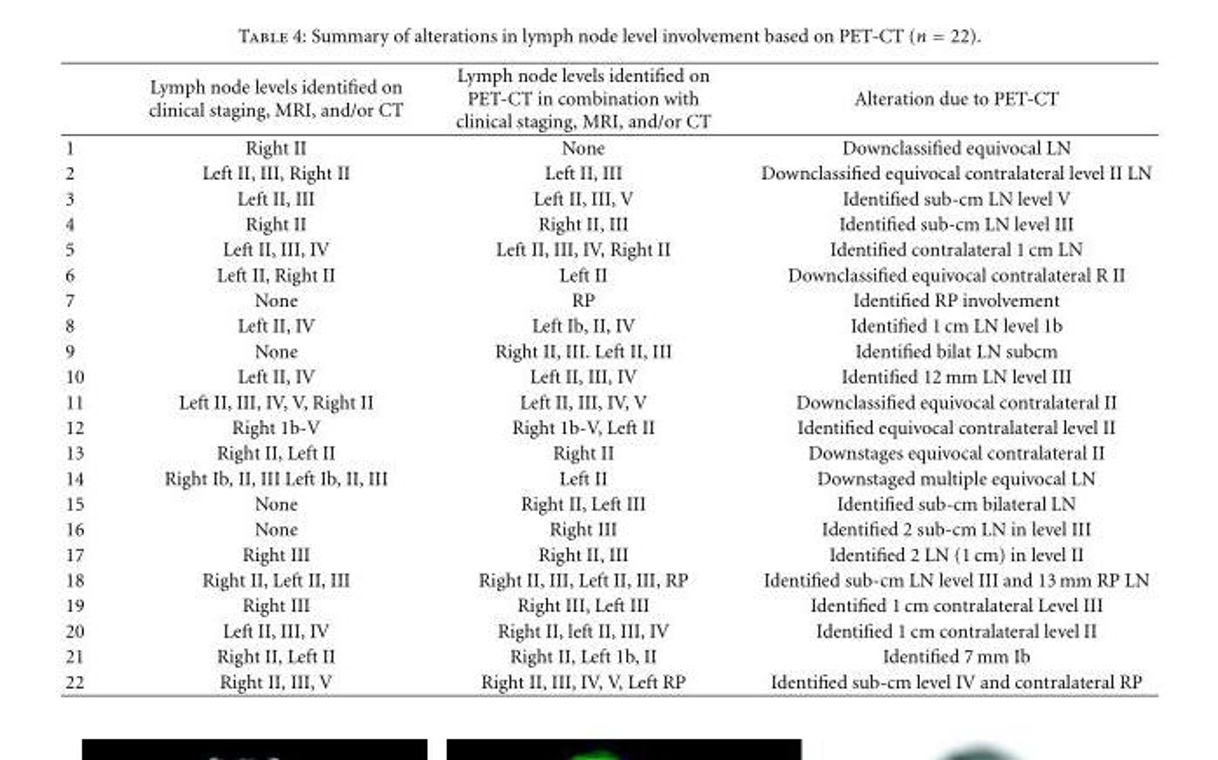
<table><thead><tr><td></td><td>Lymph node levels identified on clinical staging, MRI, and/or CT</td><td>Lymph node levels identified on PET-CT in combination with clinical staging, MRI, and/or CT</td><td>Alteration due to PET-CT</td></tr></thead><tbody><tr><td>1</td><td>Right II</td><td>None</td><td>Downclassified equivocal LN</td></tr><tr><td>2</td><td>Left II, III, Right II</td><td>Left II, III</td><td>Downclassified equivocal contralateral level II LN</td></tr><tr><td>3</td><td>Left II, III</td><td>Left II, III, V</td><td>Identified sub-cm LN level V</td></tr><tr><td>4</td><td>Right II</td><td>Right II, III</td><td>Identified sub-cm LN level III</td></tr><tr><td>5</td><td>Left II, III, IV</td><td>Left II, III, IV, Right II</td><td>Identified contralateral 1 cm LN</td></tr><tr><td>6</td><td>Left II, Right II</td><td>Left II</td><td>Downclassified equivocal contralateral R II</td></tr><tr><td>7</td><td>None</td><td>RP</td><td>Identified RP involvement</td></tr><tr><td>8</td><td>Left II, IV</td><td>Left Ib, II, IV</td><td>Identified 1 cm LN level 1b</td></tr><tr><td>9</td><td>None</td><td>Right II, III. Left II, III</td><td>Identified bilat LN subcm</td></tr><tr><td>10</td><td>Left II, IV</td><td>Left II, III, IV</td><td>Identified 12 mm LN level III</td></tr><tr><td>11</td><td>Left II, III, IV, V, Right II</td><td>Left II, III, IV, V</td><td>Downclassified equivocal contralateral II</td></tr><tr><td>12</td><td>Right 1b-V</td><td>Right 1b-V, Left II</td><td>Identified equivocal contralateral level II</td></tr><tr><td>13</td><td>Right II, Left II</td><td>Right II</td><td>Downstages equivocal contralateral II</td></tr><tr><td>14</td><td>Right Ib, II, III Left Ib, II, III</td><td>Left II</td><td>Downstaged multiple equivocal LN</td></tr><tr><td>15</td><td>None</td><td>Right II, Left III</td><td>Identified sub-cm bilateral LN</td></tr><tr><td>16</td><td>None</td><td>Right III</td><td>Identified 2 sub-cm LN in level III</td></tr><tr><td>17</td><td>Right III</td><td>Right II, III</td><td>Identified 2 LN (1 cm) in level II</td></tr><tr><td>18</td><td>Right II, Left II, III</td><td>Right II, III, Left II, III, RP</td><td>Identified sub-cm LN level III and 13 mm RP LN</td></tr><tr><td>19</td><td>Right III</td><td>Right III, Left III</td><td>Identified 1 cm contralateral Level III</td></tr><tr><td>20</td><td>Left II, III, IV</td><td>Right II, left II, III, IV</td><td>Identified 1 cm contralateral level II</td></tr><tr><td>21</td><td>Right II, Left II</td><td>Right II, Left 1b, II</td><td>Identified 7 mm Ib</td></tr><tr><td>22</td><td>Right II, III, V</td><td>Right II, III, IV, V, Left RP</td><td>Identified sub-cm level IV and contralateral RP</td></tr></tbody></table>